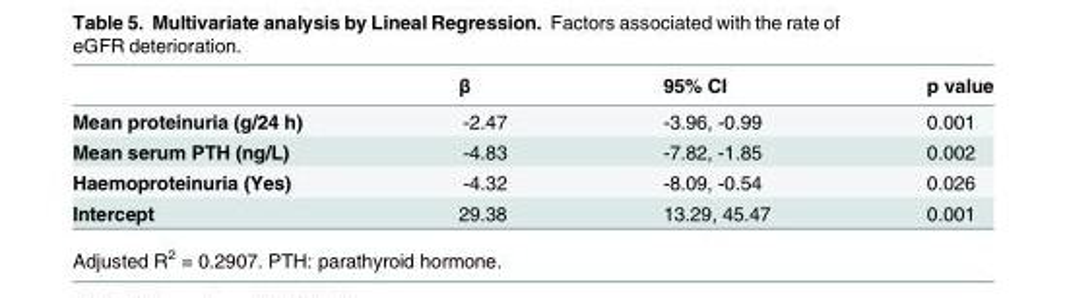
<table><thead><tr><td></td><td>β</td><td>95% CI</td><td>p value</td></tr></thead><tbody><tr><td>Mean proteinuria (g/24 h)</td><td>-2.47</td><td>-3.96, -0.99</td><td>0.001</td></tr><tr><td>Mean serum PTH (ng/L)</td><td>-4.83</td><td>-7.82, -1.85</td><td>0.002</td></tr><tr><td>Haemoproteinuria (Yes)</td><td>-4.32</td><td>-8.09, -0.54</td><td>0.026</td></tr><tr><td>Intercept</td><td>29.38</td><td>13.29, 45.47</td><td>0.001</td></tr></tbody></table>